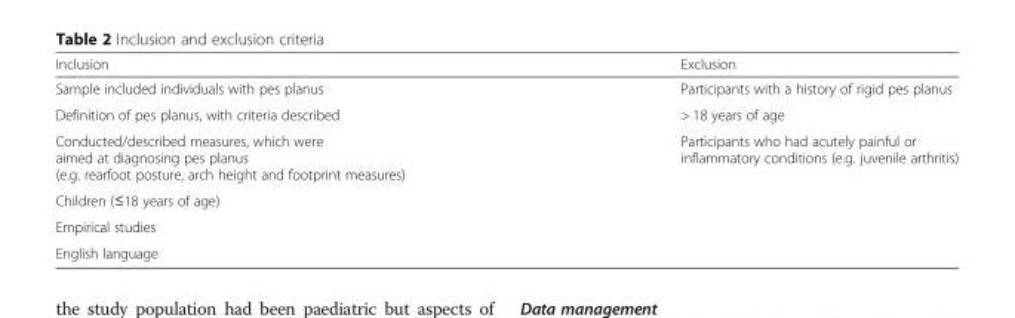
<table><thead><tr><td>Inclusion</td><td>Exclusion</td></tr></thead><tbody><tr><td>Sample included individuals with pes planus</td><td>Participants with a history of rigid pes planus</td></tr><tr><td>Definition of pes planus, with criteria described</td><td>&gt; 18 years of age</td></tr><tr><td>Conducted/described measures, which were aimed at diagnosing pes planus (e.g. rearfoot posture, arch height and footprint measures)</td><td>Participants who had acutely painful or inflammatory conditions (e.g. juvenile arthritis)</td></tr><tr><td colspan="2">Children (≤18 years of age)</td></tr><tr><td colspan="2">Empirical studies</td></tr><tr><td>English language</td><td></td></tr></tbody></table>